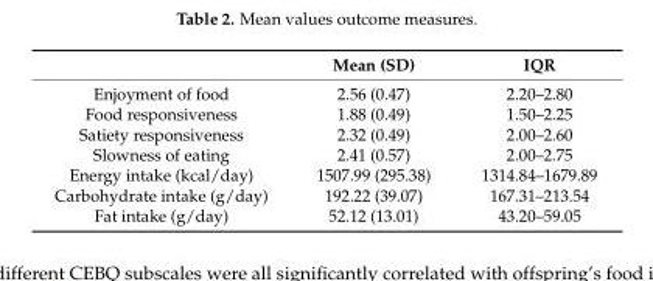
<table><thead><tr><td></td><td>Mean (SD)</td><td>IQR</td></tr></thead><tbody><tr><td>Enjoyment of food</td><td>2.56 (0.47)</td><td>2.20–2.80</td></tr><tr><td>Food responsiveness</td><td>1.88 (0.49)</td><td>1.50–2.25</td></tr><tr><td>Satiety responsiveness</td><td>2.32 (0.49)</td><td>2.00–2.60</td></tr><tr><td>Slowness of eating</td><td>2.41 (0.57)</td><td>2.00–2.75</td></tr><tr><td>Energy intake (kcal/day)</td><td>1507.99 (295.38)</td><td>1314.84–1679.89</td></tr><tr><td>Carbohydrate intake (g/day)</td><td>192.22 (39.07)</td><td>167.31–213.54</td></tr><tr><td>Fat intake (g/day)</td><td>52.12 (13.01)</td><td>43.20–59.05</td></tr></tbody></table>